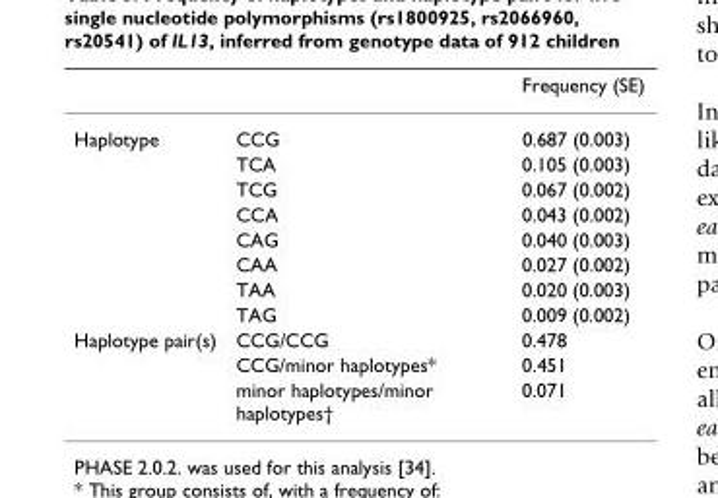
<table><thead><tr><td></td><td></td><td>Frequency (SE)</td></tr></thead><tbody><tr><td rowspan="8">Haplotype</td><td>CCG</td><td>0.687 (0.003)</td></tr><tr><td>TCA</td><td>0.105 (0.003)</td></tr><tr><td>TCG</td><td>0.067 (0.002)</td></tr><tr><td>CCA</td><td>0.043 (0.002)</td></tr><tr><td>CAG</td><td>0.040 (0.003)</td></tr><tr><td>CAA</td><td>0.027 (0.002)</td></tr><tr><td>TAA</td><td>0.020 (0.003)</td></tr><tr><td>TAG</td><td>0.009 (0.002)</td></tr><tr><td rowspan="3">Haplotype pair(s)</td><td>CCG/CCG</td><td>0.478</td></tr><tr><td>CCG/minor haplotypes*</td><td>0.451</td></tr><tr><td>minor haplotypes/minor haplotypes†</td><td>0.071</td></tr></tbody></table>